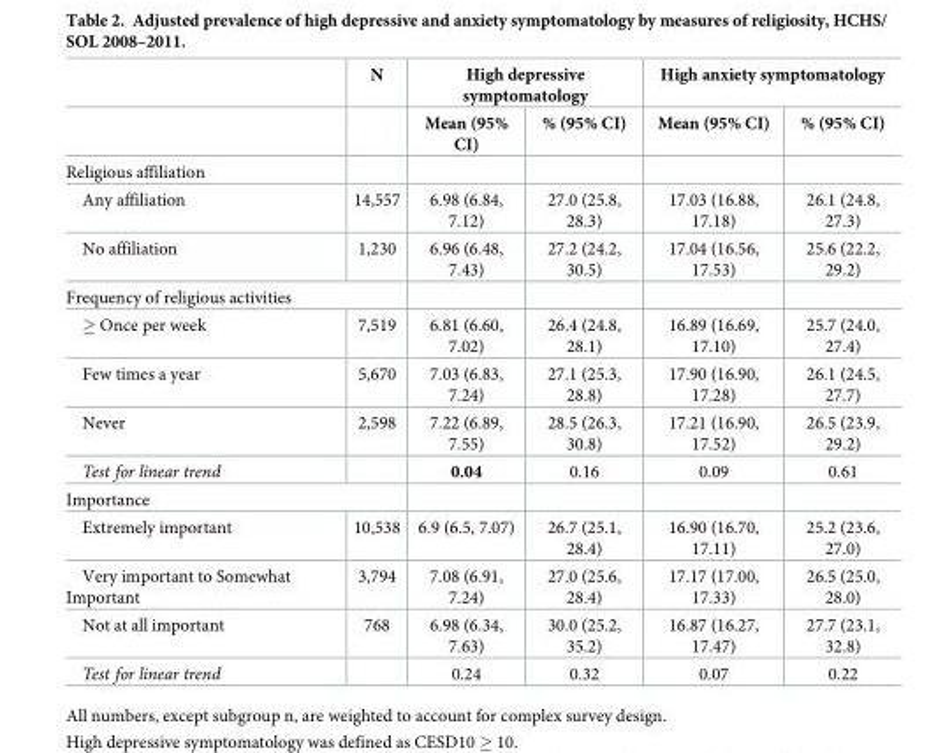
<table><thead><tr><td rowspan="2"></td><td rowspan="2">N</td><td colspan="2">High depressive symptomatology</td><td colspan="2">High anxiety symptomatology</td></tr><tr><td>Mean (95% CI)</td><td>% (95% CI)</td><td>Mean (95% CI)</td><td>% (95% CI)</td></tr></thead><tbody><tr><td colspan="6">Religious affiliation</td></tr><tr><td>Any affiliation</td><td>14,557</td><td>6.98 (6.84, 7.12)</td><td>27.0 (25.8, 28.3)</td><td>17.03 (16.88, 17.18)</td><td>26.1 (24.8, 27.3)</td></tr><tr><td>No affiliation</td><td>1,230</td><td>6.96 (6.48, 7.43)</td><td>27.2 (24.2, 30.5)</td><td>17.04 (16.56, 17.53)</td><td>25.6 (22.2, 29.2)</td></tr><tr><td colspan="6">Frequency of religious activities</td></tr><tr><td>≥ Once per week</td><td>7,519</td><td>6.81 (6.60, 7.02)</td><td>26.4 (24.8, 28.1)</td><td>16.89 (16.69, 17.10)</td><td>25.7 (24.0, 27.4)</td></tr><tr><td>Few times a year</td><td>5,670</td><td>7.03 (6.83, 7.24)</td><td>27.1 (25.3, 28.8)</td><td>17.90 (16.90, 17.28)</td><td>26.1 (24.5, 27.7)</td></tr><tr><td>Never</td><td>2,598</td><td>7.22 (6.89, 7.55)</td><td>28.5 (26.3, 30.8)</td><td>17.21 (16.90, 17.52)</td><td>26.5 (23.9, 29.2)</td></tr><tr><td>Test for linear trend</td><td></td><td>0.04</td><td>0.16</td><td>0.09</td><td>0.61</td></tr><tr><td colspan="6">Importance</td></tr><tr><td>Extremely important</td><td>10,538</td><td>6.9 (6.5, 7.07)</td><td>26.7 (25.1, 28.4)</td><td>16.90 (16.70, 17.11)</td><td>25.2 (23.6, 27.0)</td></tr><tr><td>Very important to Somewhat Important</td><td>3,794</td><td>7.08 (6.91, 7.24)</td><td>27.0 (25.6, 28.4)</td><td>17.17 (17.00, 17.33)</td><td>26.5 (25.0, 28.0)</td></tr><tr><td>Not at all important</td><td>768</td><td>6.98 (6.34, 7.63)</td><td>30.0 (25.2, 35.2)</td><td>16.87 (16.27, 17.47)</td><td>27.7 (23.1, 32.8)</td></tr><tr><td>Test for linear trend</td><td></td><td>0.24</td><td>0.32</td><td>0.07</td><td>0.22</td></tr></tbody></table>